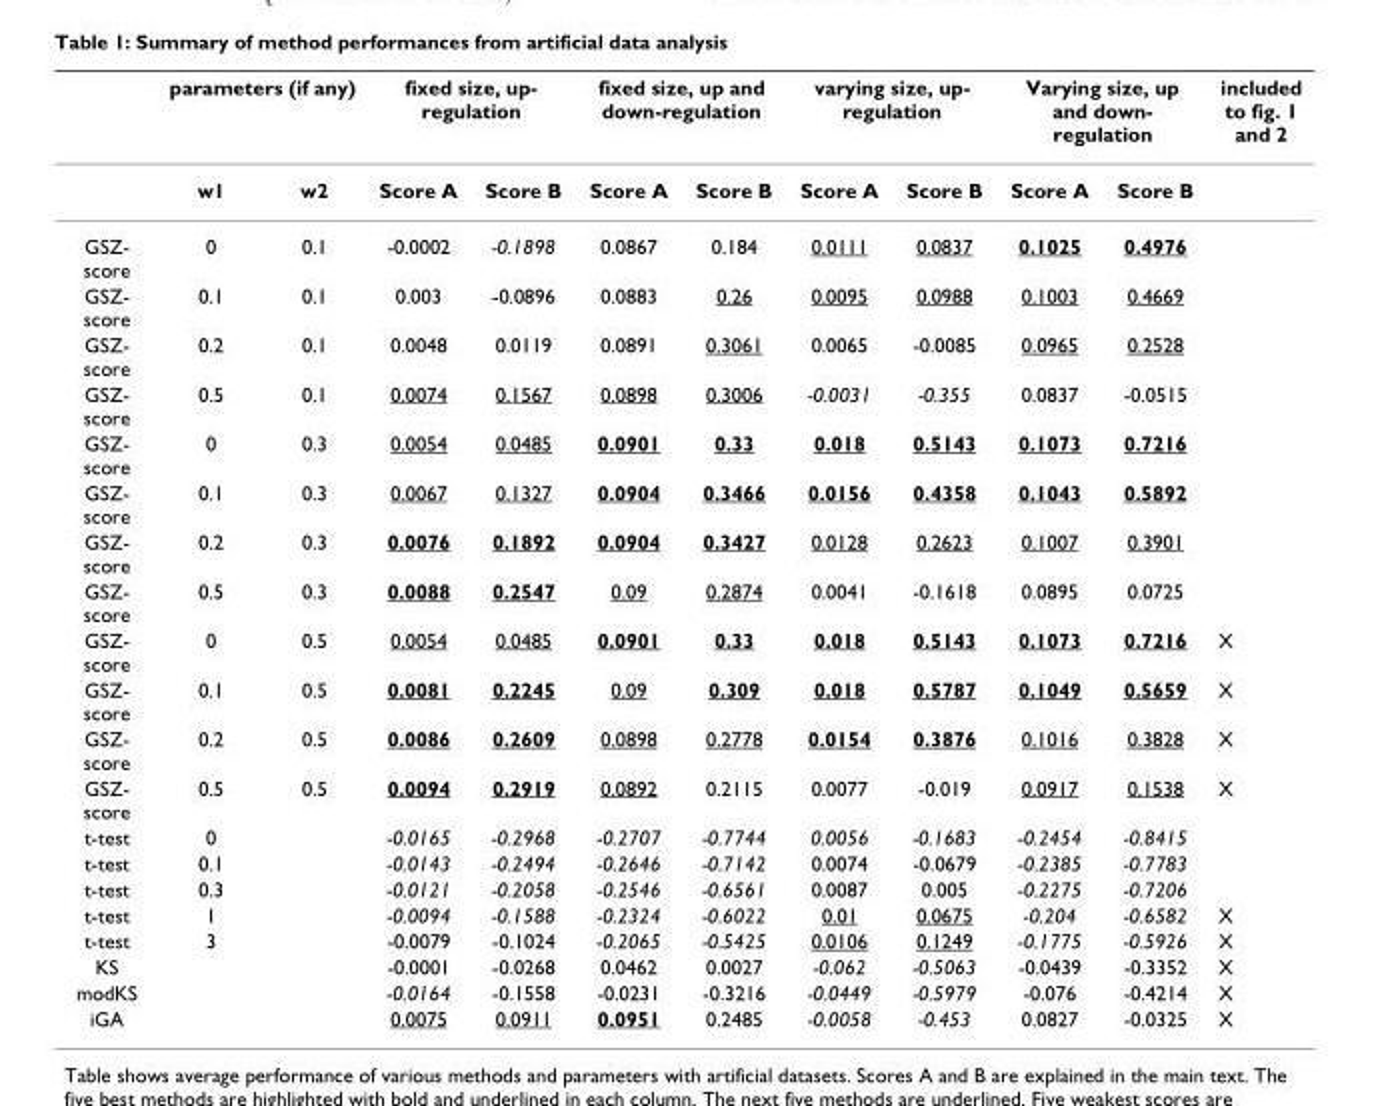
<table><thead><tr><td rowspan="2"></td><td colspan="2">parameters (if any)</td><td colspan="2">fixed size, up- regulation</td><td colspan="2">fixed size, up and down-regulation</td><td colspan="2">varying size, up- regulation</td><td colspan="2">Varying size, up and down- regulation</td><td rowspan="2">included to fig. 1 and 2</td></tr><tr><td>w1</td><td>w2</td><td>Score A</td><td>Score B</td><td>Score A</td><td>Score B</td><td>Score A</td><td>Score B</td><td>Score A</td><td>Score B</td></tr></thead><tbody><tr><td>GSZ- score</td><td>0</td><td>0.1</td><td>-0.0002</td><td>-0.1898</td><td>0.0867</td><td>0.184</td><td>0.0111</td><td>0.0837</td><td>0.1025</td><td>0.4976</td><td></td></tr><tr><td>GSZ- score</td><td>0.1</td><td>0.1</td><td>0.003</td><td>-0.0896</td><td>0.0883</td><td>0.26</td><td>0.0095</td><td>0.0988</td><td>0.1003</td><td>0.4669</td><td></td></tr><tr><td>GSZ- score</td><td>0.2</td><td>0.1</td><td>0.0048</td><td>0.0119</td><td>0.0891</td><td>0.3061</td><td>0.0065</td><td>-0.0085</td><td>0.0965</td><td>0.2528</td><td></td></tr><tr><td>GSZ- score</td><td>0.5</td><td>0.1</td><td>0.0074</td><td>0.1567</td><td>0.0898</td><td>0.3006</td><td>-0.0031</td><td>-0.355</td><td>0.0837</td><td>-0.0515</td><td></td></tr><tr><td>GSZ- score</td><td>0</td><td>0.3</td><td>0.0054</td><td>0.0485</td><td>0.0901</td><td>0.33</td><td>0.018</td><td>0.5143</td><td>0.1073</td><td>0.7216</td><td></td></tr><tr><td>GSZ- score</td><td>0.1</td><td>0.3</td><td>0.0067</td><td>0.1327</td><td>0.0904</td><td>0.3466</td><td>0.0156</td><td>0.4358</td><td>0.1043</td><td>0.5892</td><td></td></tr><tr><td>GSZ- score</td><td>0.2</td><td>0.3</td><td>0.0076</td><td>0.1892</td><td>0.0904</td><td>0.3427</td><td>0.0128</td><td>0.2623</td><td>0.1007</td><td>0.3901</td><td></td></tr><tr><td>GSZ- score</td><td>0.5</td><td>0.3</td><td>0.0088</td><td>0.2547</td><td>0.09</td><td>0.2874</td><td>0.0041</td><td>-0.1618</td><td>0.0895</td><td>0.0725</td><td></td></tr><tr><td>GSZ- score</td><td>0</td><td>0.5</td><td>0.0054</td><td>0.0485</td><td>0.0901</td><td>0.33</td><td>0.018</td><td>0.5143</td><td>0.1073</td><td>0.7216</td><td>X</td></tr><tr><td>GSZ- score</td><td>0.1</td><td>0.5</td><td>0.0081</td><td>0.2245</td><td>0.09</td><td>0.309</td><td>0.018</td><td>0.5787</td><td>0.1049</td><td>0.5659</td><td>X</td></tr><tr><td>GSZ- score</td><td>0.2</td><td>0.5</td><td>0.0086</td><td>0.2609</td><td>0.0898</td><td>0.2778</td><td>0.0154</td><td>0.3876</td><td>0.1016</td><td>0.3828</td><td>X</td></tr><tr><td>GSZ- score</td><td>0.5</td><td>0.5</td><td>0.0094</td><td>0.2919</td><td>0.0892</td><td>0.2115</td><td>0.0077</td><td>-0.019</td><td>0.0917</td><td>0.1538</td><td>X</td></tr><tr><td>t-test</td><td>0</td><td></td><td>-0.0165</td><td>-0.2968</td><td>-0.2707</td><td>-0.7744</td><td>0.0056</td><td>-0.1683</td><td>-0.2454</td><td>-0.8415</td><td></td></tr><tr><td>t-test</td><td>0.1</td><td></td><td>-0.0143</td><td>-0.2494</td><td>-0.2646</td><td>-0.7142</td><td>0.0074</td><td>-0.0679</td><td>-0.2385</td><td>-0.7783</td><td></td></tr><tr><td>t-test</td><td>0.3</td><td></td><td>-0.0121</td><td>-0.2058</td><td>-0.2546</td><td>-0.6561</td><td>0.0087</td><td>0.005</td><td>-0.2275</td><td>-0.7206</td><td></td></tr><tr><td>t-test</td><td>1</td><td></td><td>-0.0094</td><td>-0.1588</td><td>-0.2324</td><td>-0.6022</td><td>0.01</td><td>0.0675</td><td>-0.204</td><td>-0.6582</td><td>X</td></tr><tr><td>t-test</td><td>3</td><td></td><td>-0.0079</td><td>-0.1024</td><td>-0.2065</td><td>-0.5425</td><td>0.0106</td><td>0.1249</td><td>-0.1775</td><td>-0.5926</td><td>X</td></tr><tr><td>KS</td><td></td><td></td><td>-0.0001</td><td>-0.0268</td><td>0.0462</td><td>0.0027</td><td>-0.062</td><td>-0.5063</td><td>-0.0439</td><td>-0.3352</td><td>X</td></tr><tr><td>modKS</td><td></td><td></td><td>-0.0164</td><td>-0.1558</td><td>-0.0231</td><td>-0.3216</td><td>-0.0449</td><td>-0.5979</td><td>-0.076</td><td>-0.4214</td><td>X</td></tr><tr><td>iGA</td><td></td><td></td><td>0.0075</td><td>0.0911</td><td>0.0951</td><td>0.2485</td><td>-0.0058</td><td>-0.453</td><td>0.0827</td><td>-0.0325</td><td>X</td></tr></tbody></table>